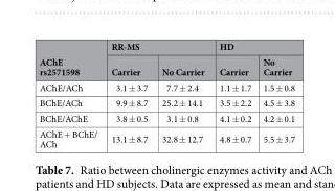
<table><thead><tr><td rowspan="2">AChE rs2571598</td><td colspan="2">RR-MS</td><td colspan="2">HD</td></tr><tr><td>Carrier</td><td>No Carrier</td><td>Carrier</td><td>No Carrier</td></tr></thead><tbody><tr><td>AChE/ACh</td><td>3.1 ± 3.7</td><td>7.7 ± 2.4</td><td>1.1 ± 1.7</td><td>1.5 ± 0.8</td></tr><tr><td>BChE/ACh</td><td>9.9 ± 8.7</td><td>25.2 ± 14.1</td><td>3.5 ± 2.2</td><td>4.5 ± 3.8</td></tr><tr><td>BChE/AChE</td><td>3.8 ± 0.5</td><td>3.1 ± 0.8</td><td>4.1 ± 0.2</td><td>4.2 ± 0.1</td></tr><tr><td>AChE + BChE/ ACh</td><td>13.1 ± 8.7</td><td>32.8 ± 12.7</td><td>4.8 ± 0.7</td><td>5.5 ± 3.7</td></tr></tbody></table>